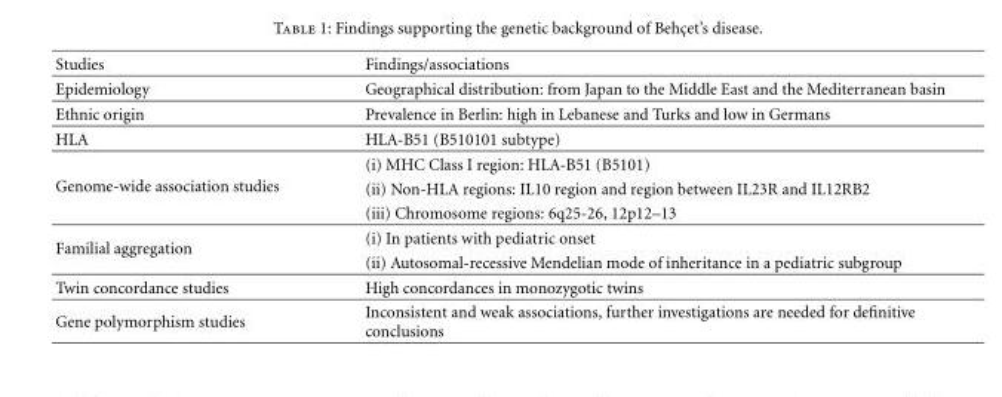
<table><thead><tr><td>Studies</td><td>Findings/associations</td></tr></thead><tbody><tr><td>Epidemiology</td><td>Geographical distribution: from Japan to the Middle East and the Mediterranean basin</td></tr><tr><td>Ethnic origin</td><td>Prevalence in Berlin: high in Lebanese and Turks and low in Germans</td></tr><tr><td>HLA</td><td>HLA-B51 (B510101 subtype)</td></tr><tr><td rowspan="3">Genome-wide association studies</td><td>(i) MHC Class I region: HLA-B51 (B5101)</td></tr><tr><td>(ii) Non-HLA regions: IL10 region and region between IL23R and IL12RB2</td></tr><tr><td>(iii) Chromosome regions: 6q25-26, 12p12–13</td></tr><tr><td rowspan="2">Familial aggregation</td><td>(i) In patients with pediatric onset</td></tr><tr><td>(ii) Autosomal-recessive Mendelian mode of inheritance in a pediatric subgroup</td></tr><tr><td>Twin concordance studies</td><td>High concordances in monozygotic twins</td></tr><tr><td>Gene polymorphism studies</td><td>Inconsistent and weak associations, further investigations are needed for definitive conclusions</td></tr></tbody></table>